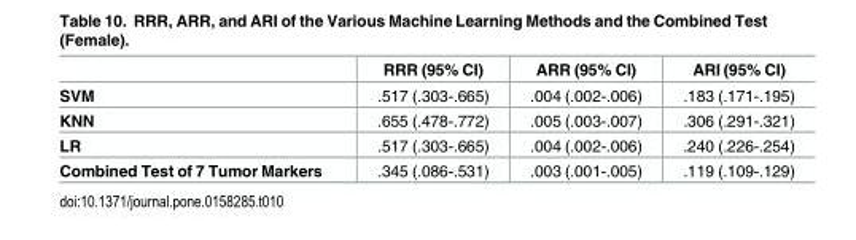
<table><thead><tr><td></td><td>RRR (95% CI)</td><td>ARR (95% CI)</td><td>ARI (95% CI)</td></tr></thead><tbody><tr><td>SVM</td><td>.517 (.303-.665)</td><td>.004 (.002-.006)</td><td>.183 (.171-.195)</td></tr><tr><td>KNN</td><td>.655 (.478-.772)</td><td>.005 (.003-.007)</td><td>.306 (.291-.321)</td></tr><tr><td>LR</td><td>.517 (.303-.665)</td><td>.004 (.002-.006)</td><td>.240 (.226-.254)</td></tr><tr><td>Combined Test of 7 Tumor Markers</td><td>.345 (.086-.531)</td><td>.003 (.001-.005)</td><td>.119 (.109-.129)</td></tr></tbody></table>